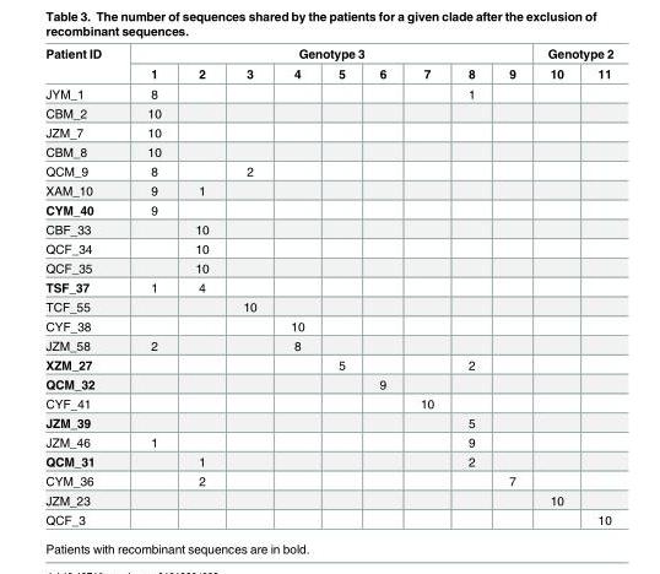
<table><thead><tr><td rowspan="2">Patient ID</td><td colspan="9">Genotype 3</td><td colspan="2">Genotype 2</td></tr><tr><td>1</td><td>2</td><td>3</td><td>4</td><td>5</td><td>6</td><td>7</td><td>8</td><td>9</td><td>10</td><td>11</td></tr></thead><tbody><tr><td>JYM_1</td><td>8</td><td></td><td></td><td></td><td></td><td></td><td></td><td>1</td><td></td><td></td><td></td></tr><tr><td>CBM_2</td><td>10</td><td></td><td></td><td></td><td></td><td></td><td></td><td></td><td></td><td></td><td></td></tr><tr><td>JZM_7</td><td>10</td><td></td><td></td><td></td><td></td><td></td><td></td><td></td><td></td><td></td><td></td></tr><tr><td>CBM_8</td><td>10</td><td></td><td></td><td></td><td></td><td></td><td></td><td></td><td></td><td></td><td></td></tr><tr><td>QCM_9</td><td>8</td><td></td><td>2</td><td></td><td></td><td></td><td></td><td></td><td></td><td></td><td></td></tr><tr><td>XAM_10</td><td>9</td><td>1</td><td></td><td></td><td></td><td></td><td></td><td></td><td></td><td></td><td></td></tr><tr><td>CYM_40</td><td>9</td><td></td><td></td><td></td><td></td><td></td><td></td><td></td><td></td><td></td><td></td></tr><tr><td>CBF_33</td><td></td><td>10</td><td></td><td></td><td></td><td></td><td></td><td></td><td></td><td></td><td></td></tr><tr><td>QCF_34</td><td></td><td>10</td><td></td><td></td><td></td><td></td><td></td><td></td><td></td><td></td><td></td></tr><tr><td>QCF_35</td><td></td><td>10</td><td></td><td></td><td></td><td></td><td></td><td></td><td></td><td></td><td></td></tr><tr><td>TSF_37</td><td>1</td><td>4</td><td></td><td></td><td></td><td></td><td></td><td></td><td></td><td></td><td></td></tr><tr><td>TCF_55</td><td></td><td></td><td>10</td><td></td><td></td><td></td><td></td><td></td><td></td><td></td><td></td></tr><tr><td>CYF_38</td><td></td><td></td><td></td><td>10</td><td></td><td></td><td></td><td></td><td></td><td></td><td></td></tr><tr><td>JZM_58</td><td>2</td><td></td><td></td><td>8</td><td></td><td></td><td></td><td></td><td></td><td></td><td></td></tr><tr><td>XZM_27</td><td></td><td></td><td></td><td></td><td>5</td><td></td><td></td><td>2</td><td></td><td></td><td></td></tr><tr><td>QCM_32</td><td></td><td></td><td></td><td></td><td></td><td>9</td><td></td><td></td><td></td><td></td><td></td></tr><tr><td>CYF_41</td><td></td><td></td><td></td><td></td><td></td><td></td><td>10</td><td></td><td></td><td></td><td></td></tr><tr><td>JZM_39</td><td></td><td></td><td></td><td></td><td></td><td></td><td></td><td>5</td><td></td><td></td><td></td></tr><tr><td>JZM_46</td><td>1</td><td></td><td></td><td></td><td></td><td></td><td></td><td>9</td><td></td><td></td><td></td></tr><tr><td>QCM_31</td><td></td><td>1</td><td></td><td></td><td></td><td></td><td></td><td>2</td><td></td><td></td><td></td></tr><tr><td>CYM_36</td><td></td><td>2</td><td></td><td></td><td></td><td></td><td></td><td></td><td>7</td><td></td><td></td></tr><tr><td>JZM_23</td><td></td><td></td><td></td><td></td><td></td><td></td><td></td><td></td><td></td><td>10</td><td></td></tr><tr><td>QCF_3</td><td></td><td></td><td></td><td></td><td></td><td></td><td></td><td></td><td></td><td></td><td>10</td></tr></tbody></table>